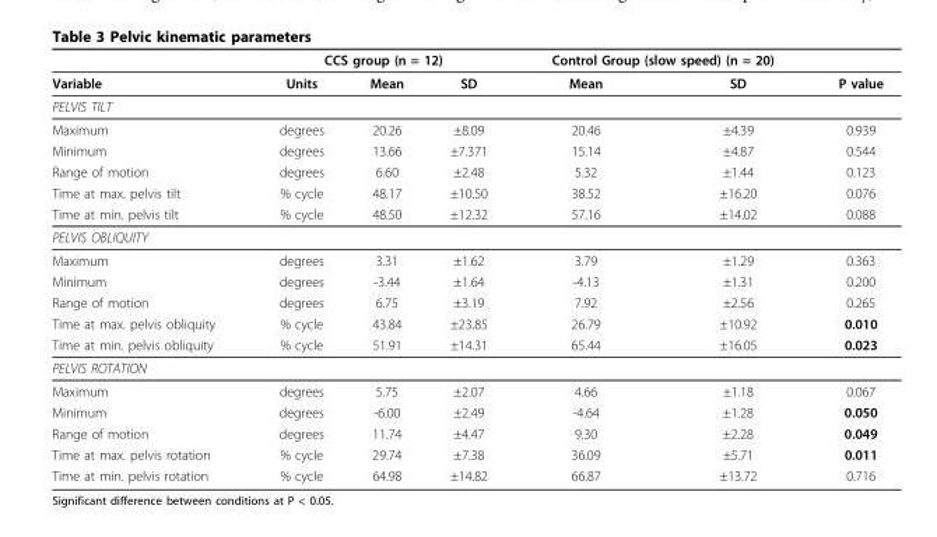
<table><thead><tr><td rowspan="2">Variable</td><td colspan="3">CCS group (n = 12)</td><td colspan="2">Control Group (slow speed) (n = 20)</td><td rowspan="2">P value</td></tr><tr><td>Units</td><td>Mean</td><td>SD</td><td>Mean</td><td>SD</td></tr></thead><tbody><tr><td colspan="7">PELVIS TILT</td></tr><tr><td>Maximum</td><td>degrees</td><td>20.26</td><td>±8.09</td><td>20.46</td><td>±4.39</td><td>0.939</td></tr><tr><td>Minimum</td><td>degrees</td><td>13.66</td><td>±7.371</td><td>15.14</td><td>±4.87</td><td>0.544</td></tr><tr><td>Range of motion</td><td>degrees</td><td>6.60</td><td>±2.48</td><td>5.32</td><td>±1.44</td><td>0.123</td></tr><tr><td>Time at max. pelvis tilt</td><td>% cycle</td><td>48.17</td><td>±10.50</td><td>38.52</td><td>±16.20</td><td>0.076</td></tr><tr><td>Time at min. pelvis tilt</td><td>% cycle</td><td>48.50</td><td>±12.32</td><td>57.16</td><td>±14.02</td><td>0.088</td></tr><tr><td colspan="7">PELVIS OBLIQUITY</td></tr><tr><td>Maximum</td><td>degrees</td><td>3.31</td><td>±1.62</td><td>3.79</td><td>±1.29</td><td>0.363</td></tr><tr><td>Minimum</td><td>degrees</td><td>-3.44</td><td>±1.64</td><td>-4.13</td><td>±1.31</td><td>0.200</td></tr><tr><td>Range of motion</td><td>degrees</td><td>6.75</td><td>±3.19</td><td>7.92</td><td>±2.56</td><td>0.265</td></tr><tr><td>Time at max. pelvis obliquity</td><td>% cycle</td><td>43.84</td><td>±23.85</td><td>26.79</td><td>±10.92</td><td>0.010</td></tr><tr><td>Time at min. pelvis obliquity</td><td>% cycle</td><td>51.91</td><td>±14.31</td><td>65.44</td><td>±16.05</td><td>0.023</td></tr><tr><td colspan="7">PELVIS ROTATION</td></tr><tr><td>Maximum</td><td>degrees</td><td>5.75</td><td>±2.07</td><td>4.66</td><td>±1.18</td><td>0.067</td></tr><tr><td>Minimum</td><td>degrees</td><td>-6.00</td><td>±2.49</td><td>-4.64</td><td>±1.28</td><td>0.050</td></tr><tr><td>Range of motion</td><td>degrees</td><td>11.74</td><td>±4.47</td><td>9.30</td><td>±2.28</td><td>0.049</td></tr><tr><td>Time at max. pelvis rotation</td><td>% cycle</td><td>29.74</td><td>±7.38</td><td>36.09</td><td>±5.71</td><td>0.011</td></tr><tr><td>Time at min. pelvis rotation</td><td>% cycle</td><td>64.98</td><td>±14.82</td><td>66.87</td><td>±13.72</td><td>0.716</td></tr></tbody></table>